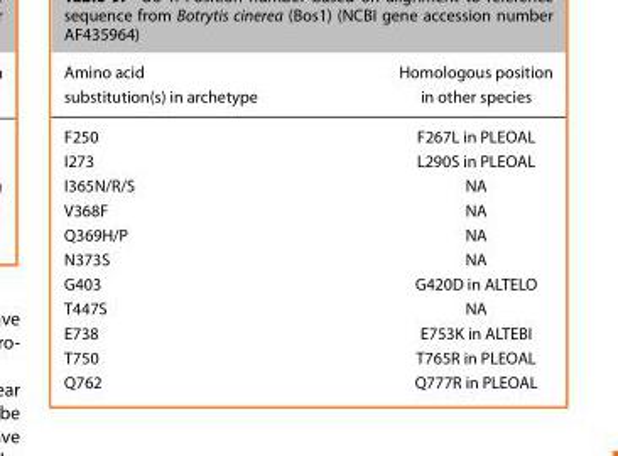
<table><thead><tr><td>Amino acid substitution(s) in archetype</td><td>Homologous position in other species</td></tr></thead><tbody><tr><td>F250</td><td>F267L in PLEOAL</td></tr><tr><td>I273</td><td>L290S in PLEOAL</td></tr><tr><td>I365N/R/S</td><td>NA</td></tr><tr><td>V368F</td><td>NA</td></tr><tr><td>Q369H/P</td><td>NA</td></tr><tr><td>N373S</td><td>NA</td></tr><tr><td>G403</td><td>G420D in ALTELO</td></tr><tr><td>T447S</td><td>NA</td></tr><tr><td>E738</td><td>E753K in ALTEBI</td></tr><tr><td>T750</td><td>T765R in PLEOAL</td></tr><tr><td>Q762</td><td>Q777R in PLEOAL</td></tr></tbody></table>